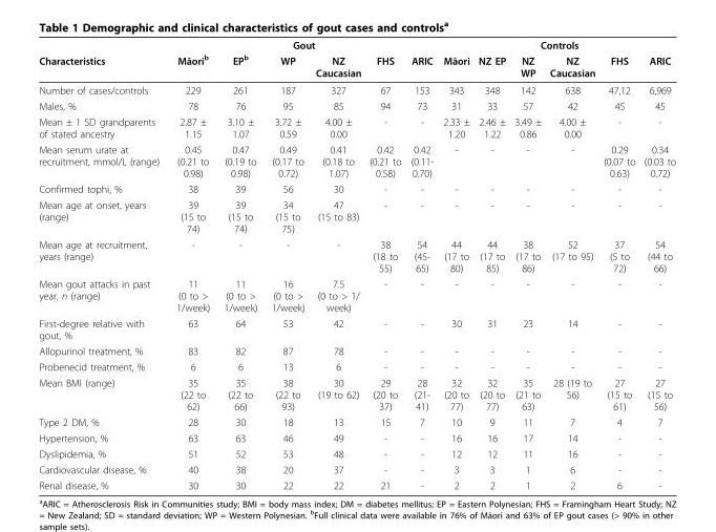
<table><thead><tr><td rowspan="2">Characteristics</td><td colspan="6">Gout</td><td colspan="6">Controls</td></tr><tr><td>Māori<sup>b</sup></td><td>EP<sup>b</sup></td><td>WP</td><td>NZ Caucasian</td><td>FHS</td><td>ARIC</td><td>Māori</td><td>NZ EP</td><td>NZ WP</td><td>NZ Caucasian</td><td>FHS</td><td>ARIC</td></tr></thead><tbody><tr><td>Number of cases/controls</td><td>229</td><td>261</td><td>187</td><td>327</td><td>67</td><td>153</td><td>343</td><td>348</td><td>142</td><td>638</td><td>47,12</td><td>6,969</td></tr><tr><td>Males, %</td><td>78</td><td>76</td><td>95</td><td>85</td><td>94</td><td>73</td><td>31</td><td>33</td><td>57</td><td>42</td><td>45</td><td>45</td></tr><tr><td>Mean ± 1 SD grandparents of stated ancestry</td><td>2.87 ± 1.15</td><td>3.10 ± 1.07</td><td>3.72 ± 0.59</td><td>4.00 ± 0.00</td><td>-</td><td>-</td><td>2.33 ± 1.20</td><td>2.46 ± 1.22</td><td>3.49 ± 0.86</td><td>4.00 ± 0.00</td><td>-</td><td>-</td></tr><tr><td>Mean serum urate at recruitment, mmol/L (range)</td><td>0.45 (0.21 to 0.98)</td><td>0.47 (0.19 to 0.98)</td><td>0.49 (0.17 to 0.72)</td><td>0.41 (0.18 to 1.07)</td><td>0.42 (0.21 to 0.58)</td><td>0.42 (0.11- 0.70)</td><td>-</td><td>-</td><td>-</td><td>-</td><td>0.29 (0.07 to 0.63)</td><td>0.34 (0.03 to 0.72)</td></tr><tr><td>Confirmed tophi, %</td><td>38</td><td>39</td><td>56</td><td>30</td><td>-</td><td>-</td><td>-</td><td>-</td><td>-</td><td>-</td><td>-</td><td>-</td></tr><tr><td>Mean age at onset, years (range)</td><td>39 (15 to 74)</td><td>39 (15 to 74)</td><td>34 (15 to 75)</td><td>47 (15 to 83)</td><td>-</td><td>-</td><td>-</td><td>-</td><td>-</td><td>-</td><td>-</td><td>-</td></tr><tr><td>Mean age at recruitment, years (range)</td><td>-</td><td>-</td><td>-</td><td>-</td><td>38 (18 to 55)</td><td>54 (45- 65)</td><td>44 (17 to 80)</td><td>44 (17 to 85)</td><td>38 (17 to 86)</td><td>52 (17 to 95)</td><td>37 (5 to 72)</td><td>54 (44 to 66)</td></tr><tr><td>Mean gout attacks in past year, n (range)</td><td>11 (0 to &gt; 1/week)</td><td>11 (0 to &gt; 1/week)</td><td>16 (0 to &gt; 1/week)</td><td>7.5 (0 to &gt; 1/ week)</td><td>-</td><td>-</td><td>-</td><td>-</td><td>-</td><td>-</td><td>-</td><td>-</td></tr><tr><td>First-degree relative with gout, %</td><td>63</td><td>64</td><td>53</td><td>42</td><td>-</td><td>-</td><td>30</td><td>31</td><td>23</td><td>14</td><td>-</td><td>-</td></tr><tr><td>Allopurinol treatment, %</td><td>83</td><td>82</td><td>87</td><td>78</td><td>-</td><td>-</td><td>-</td><td>-</td><td>-</td><td>-</td><td>-</td><td>-</td></tr><tr><td>Probenecid treatment, %</td><td>6</td><td>6</td><td>13</td><td>6</td><td>-</td><td>-</td><td>-</td><td>-</td><td>-</td><td>-</td><td>-</td><td>-</td></tr><tr><td>Mean BMI (range)</td><td>35 (22 to 62)</td><td>35 (22 to 66)</td><td>38 (22 to 93)</td><td>30 (19 to 62)</td><td>29 (20 to 37)</td><td>28 (21- 41)</td><td>32 (20 to 77)</td><td>32 (20 to 77)</td><td>35 (21 to 63)</td><td>28 (19 to 56)</td><td>27 (15 to 61)</td><td>27 (15 to 56)</td></tr><tr><td>Type 2 DM, %</td><td>28</td><td>30</td><td>18</td><td>13</td><td>15</td><td>7</td><td>10</td><td>9</td><td>11</td><td>7</td><td>4</td><td>7</td></tr><tr><td>Hypertension, %</td><td>63</td><td>63</td><td>46</td><td>49</td><td>-</td><td>-</td><td>16</td><td>16</td><td>17</td><td>14</td><td>-</td><td>-</td></tr><tr><td>Dyslipidemia, %</td><td>51</td><td>52</td><td>53</td><td>48</td><td>-</td><td>-</td><td>12</td><td>12</td><td>11</td><td>16</td><td>-</td><td>-</td></tr><tr><td>Cardiovascular disease, %</td><td>40</td><td>38</td><td>20</td><td>37</td><td>-</td><td>-</td><td>3</td><td>3</td><td>1</td><td>6</td><td>-</td><td>-</td></tr><tr><td>Renal disease, %</td><td>30</td><td>30</td><td>22</td><td>22</td><td>21</td><td>-</td><td>2</td><td>2</td><td>1</td><td>2</td><td>6</td><td>-</td></tr></tbody></table>